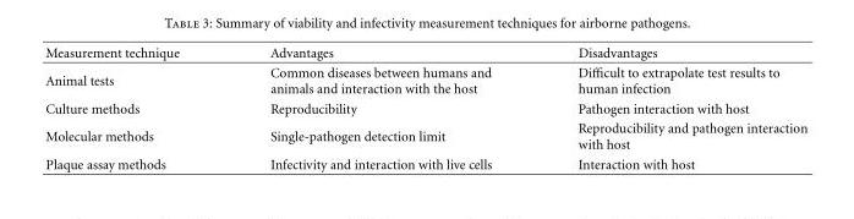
<table><thead><tr><td>Measurement technique</td><td>Advantages</td><td>Disadvantages</td></tr></thead><tbody><tr><td>Animal tests</td><td>Common diseases between humans and animals and interaction with the host</td><td>Difficult to extrapolate test results to human infection</td></tr><tr><td>Culture methods</td><td>Reproducibility</td><td>Pathogen interaction with host</td></tr><tr><td>Molecular methods</td><td>Single-pathogen detection limit</td><td>Reproducibility and pathogen interaction with host</td></tr><tr><td>Plaque assay methods</td><td>Infectivity and interaction with live cells</td><td>Interaction with host</td></tr></tbody></table>